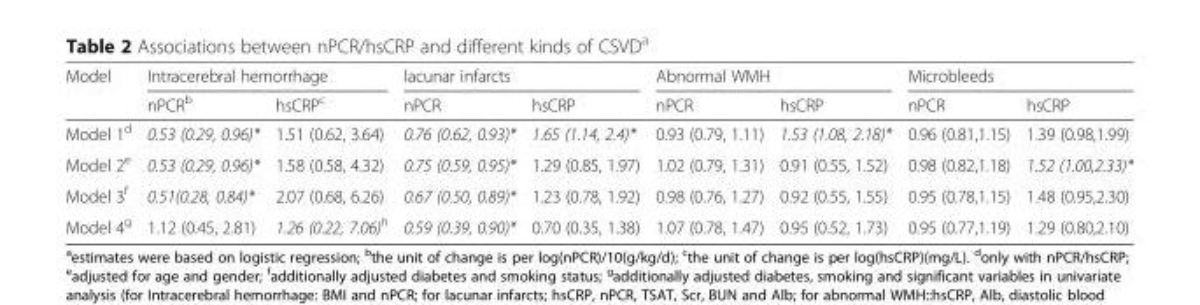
<table><thead><tr><td rowspan="2">Model</td><td colspan="2">Intracerebral hemorrhage</td><td colspan="2">lacunar infarcts</td><td colspan="2">Abnormal WMH</td><td colspan="2">Microbleeds</td></tr><tr><td>nPCR<sup>b</sup></td><td>hsCRP<sup>c</sup></td><td>nPCR</td><td>hsCRP</td><td>nPCR</td><td>hsCRP</td><td>nPCR</td><td>hsCRP</td></tr></thead><tbody><tr><td>Model 1<sup>d</sup></td><td>0.53 (0.29, 0.96)*</td><td>1.51 (0.62, 3.64)</td><td>0.76 (0.62, 0.93)*</td><td>1.65 (1.14, 2.4)*</td><td>0.93 (0.79, 1.11)</td><td>1.53 (1.08, 2.18)*</td><td>0.96 (0.81,1.15)</td><td>1.39 (0.98,1.99)</td></tr><tr><td>Model 2<sup>e</sup></td><td>0.53 (0.29, 0.96)*</td><td>1.58 (0.58, 4.32)</td><td>0.75 (0.59, 0.95)*</td><td>1.29 (0.85, 1.97)</td><td>1.02 (0.79, 1.31)</td><td>0.91 (0.55, 1.52)</td><td>0.98 (0.82,1.18)</td><td>1.52 (1.00,2.33)*</td></tr><tr><td>Model 3<sup>f</sup></td><td>0.51(0.28, 0.84)*</td><td>2.07 (0.68, 6.26)</td><td>0.67 (0.50, 0.89)*</td><td>1.23 (0.78, 1.92)</td><td>0.98 (0.76, 1.27)</td><td>0.92 (0.55, 1.55)</td><td>0.95 (0.78,1.15)</td><td>1.48 (0.95,2.30)</td></tr><tr><td>Model 4<sup>g</sup></td><td>1.12 (0.45, 2.81)</td><td>1.26 (0.22, 7.06)<sup>h</sup></td><td>0.59 (0.39, 0.90)*</td><td>0.70 (0.35, 1.38)</td><td>1.07 (0.78, 1.47)</td><td>0.95 (0.52, 1.73)</td><td>0.95 (0.77,1.19)</td><td>1.29 (0.80,2.10)</td></tr></tbody></table>